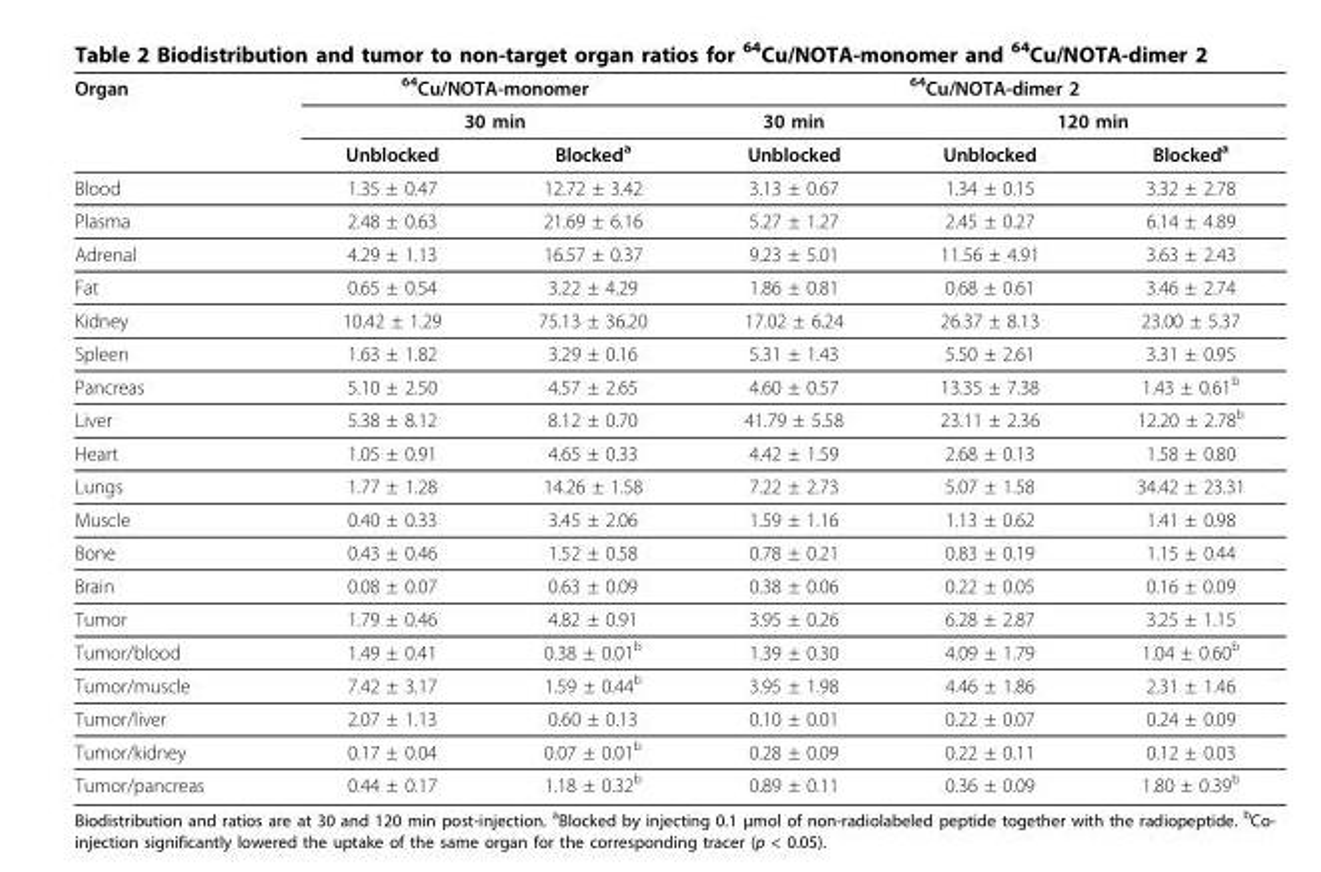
<table><thead><tr><td rowspan="3">Organ</td><td rowspan="2" colspan="2"><sup>64</sup>Cu/NOTA-monomer 30 min</td><td colspan="3"><sup>64</sup>Cu/NOTA-dimer 2</td></tr><tr><td rowspan="2">30 min Unblocked</td><td colspan="2">120 min</td></tr><tr><td>Unblocked</td><td>Blocked<sup>a</sup></td><td>Unblocked</td><td>Blocked<sup>a</sup></td></tr></thead><tbody><tr><td>Blood</td><td>1.35 ± 0.47</td><td>12.72 ± 3.42</td><td>3.13 ± 0.67</td><td>1.34 ± 0.15</td><td>3.32 ± 2.78</td></tr><tr><td>Plasma</td><td>2.48 ± 0.63</td><td>21.69 ± 6.16</td><td>5.27 ± 1.27</td><td>2.45 ± 0.27</td><td>6.14 ± 4.89</td></tr><tr><td>Adrenal</td><td>4.29 ± 1.13</td><td>16.57 ± 0.37</td><td>9.23 ± 5.01</td><td>11.56 ± 4.91</td><td>3.63 ± 2.43</td></tr><tr><td>Fat</td><td>0.65 ± 0.54</td><td>3.22 ± 4.29</td><td>1.86 ± 0.81</td><td>0.68 ± 0.61</td><td>3.46 ± 2.74</td></tr><tr><td>Kidney</td><td>10.42 ± 1.29</td><td>75.13 ± 36.20</td><td>17.02 ± 6.24</td><td>26.37 ± 8.13</td><td>23.00 ± 5.37</td></tr><tr><td>Spleen</td><td>1.63 ± 1.82</td><td>3.29 ± 0.16</td><td>5.31 ± 1.43</td><td>5.50 ± 2.61</td><td>3.31 ± 0.95</td></tr><tr><td>Pancreas</td><td>5.10 ± 2.50</td><td>4.57 ± 2.65</td><td>4.60 ± 0.57</td><td>13.35 ± 7.38</td><td>1.43 ± 0.61<sup>b</sup></td></tr><tr><td>Liver</td><td>5.38 ± 8.12</td><td>8.12 ± 0.70</td><td>41.79 ± 5.58</td><td>23.11 ± 2.36</td><td>12.20 ± 2.78<sup>b</sup></td></tr><tr><td>Heart</td><td>1.05 ± 0.91</td><td>4.65 ± 0.33</td><td>4.42 ± 1.59</td><td>2.68 ± 0.13</td><td>1.58 ± 0.80</td></tr><tr><td>Lungs</td><td>1.77 ± 1.28</td><td>14.26 ± 1.58</td><td>7.22 ± 2.73</td><td>5.07 ± 1.58</td><td>34.42 ± 23.31</td></tr><tr><td>Muscle</td><td>0.40 ± 0.33</td><td>3.45 ± 2.06</td><td>1.59 ± 1.16</td><td>1.13 ± 0.62</td><td>1.41 ± 0.98</td></tr><tr><td>Bone</td><td>0.43 ± 0.46</td><td>1.52 ± 0.58</td><td>0.78 ± 0.21</td><td>0.83 ± 0.19</td><td>1.15 ± 0.44</td></tr><tr><td>Brain</td><td>0.08 ± 0.07</td><td>0.63 ± 0.09</td><td>0.38 ± 0.06</td><td>0.22 ± 0.05</td><td>0.16 ± 0.09</td></tr><tr><td>Tumor</td><td>1.79 ± 0.46</td><td>4.82 ± 0.91</td><td>3.95 ± 0.26</td><td>6.28 ± 2.87</td><td>3.25 ± 1.15</td></tr><tr><td>Tumor/blood</td><td>1.49 ± 0.41</td><td>0.38 ± 0.01<sup>b</sup></td><td>1.39 ± 0.30</td><td>4.09 ± 1.79</td><td>1.04 ± 0.60<sup>b</sup></td></tr><tr><td>Tumor/muscle</td><td>7.42 ± 3.17</td><td>1.59 ± 0.44<sup>b</sup></td><td>3.95 ± 1.98</td><td>4.46 ± 1.86</td><td>2.31 ± 1.46</td></tr><tr><td>Tumor/liver</td><td>2.07 ± 1.13</td><td>0.60 ± 0.13</td><td>0.10 ± 0.01</td><td>0.22 ± 0.07</td><td>0.24 ± 0.09</td></tr><tr><td>Tumor/kidney</td><td>0.17 ± 0.04</td><td>0.07 ± 0.01<sup>b</sup></td><td>0.28 ± 0.09</td><td>0.22 ± 0.11</td><td>0.12 ± 0.03</td></tr><tr><td>Tumor/pancreas</td><td>0.44 ± 0.17</td><td>1.18 ± 0.32<sup>b</sup></td><td>0.89 ± 0.11</td><td>0.36 ± 0.09</td><td>1.80 ± 0.39<sup>b</sup></td></tr></tbody></table>